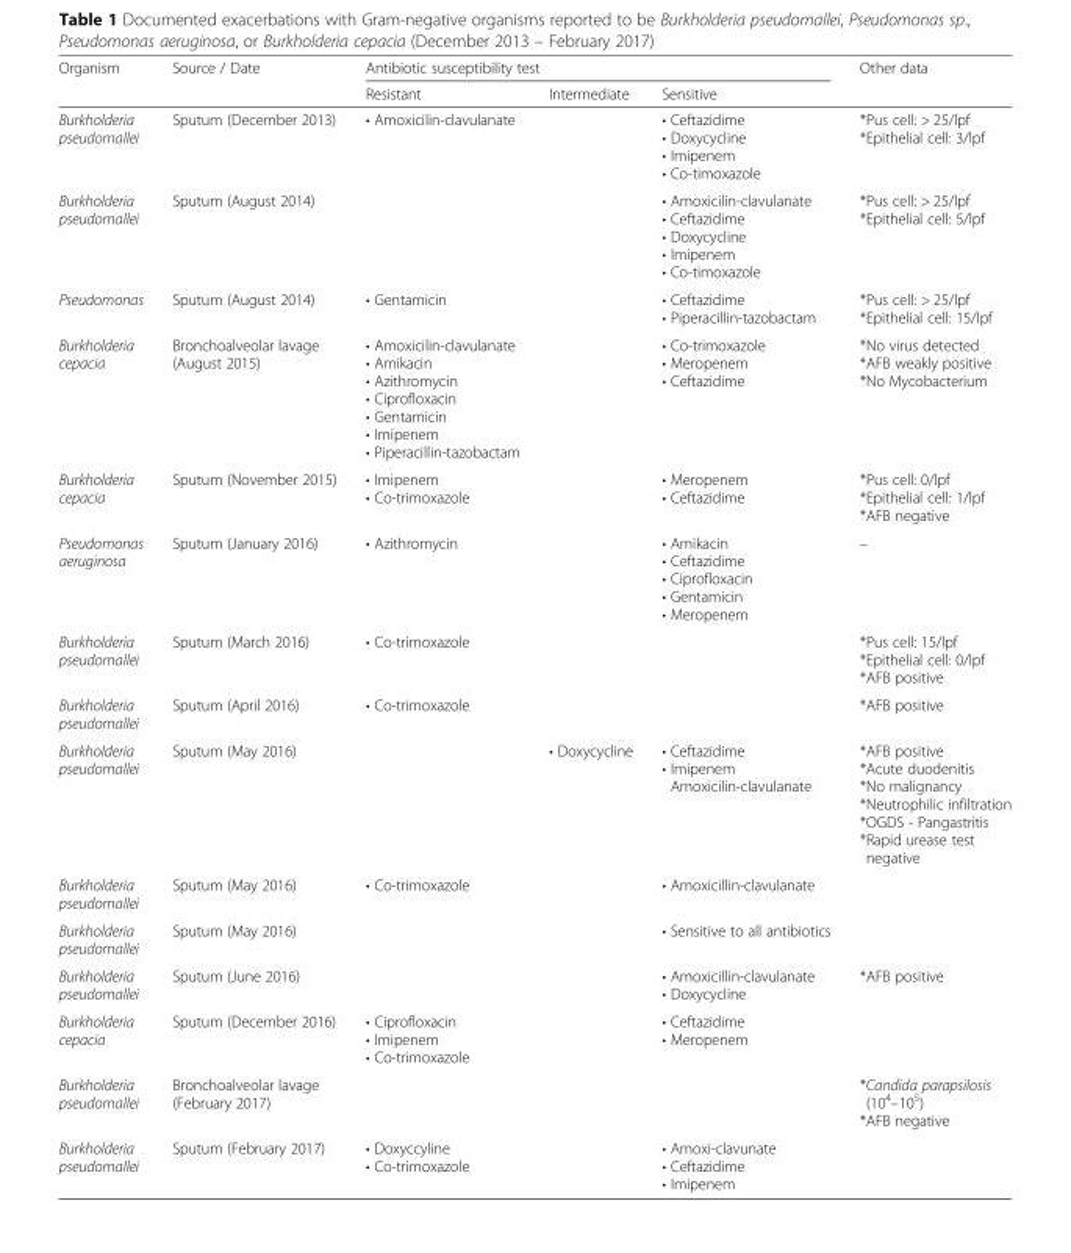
<table><thead><tr><td rowspan="2">Organism</td><td rowspan="2">Source / Date</td><td colspan="3">Antibiotic susceptibility test</td><td rowspan="2">Other data</td></tr><tr><td>Resistant</td><td>Intermediate</td><td>Sensitive</td></tr></thead><tbody><tr><td>Burkholderia pseudomallei</td><td>Sputum (December 2013)</td><td>• Amoxicilin-clavulanate</td><td></td><td>• Ceftazidime • Doxycycline • Imipenem • Co-timoxazole</td><td>*Pus cell: &gt; 25/lpf *Epithelial cell: 3/lpf</td></tr><tr><td>Burkholderia pseudomallei</td><td>Sputum (August 2014)</td><td></td><td></td><td>• Amoxicilin-clavulanate • Ceftazidime • Doxycycline • Imipenem • Co-timoxazole</td><td>*Pus cell: &gt; 25/lpf *Epithelial cell: 5/lpf</td></tr><tr><td>Pseudomonas</td><td>Sputum (August 2014)</td><td>• Gentamicin</td><td></td><td>• Ceftazidime • Piperacillin-tazobactam</td><td>*Pus cell: &gt; 25/lpf *Epithelial cell: 15/lpf</td></tr><tr><td>Burkholderia cepacia</td><td>Bronchoalveolar lavage (August 2015)</td><td>• Amoxicilin-clavulanate • Amikacin • Azithromycin • Ciprofloxacin • Gentamicin • Imipenem • Piperacillin-tazobactam</td><td></td><td>• Co-trimoxazole • Meropenem • Ceftazidime</td><td>*No virus detected *AFB weakly positive *No Mycobacterium</td></tr><tr><td>Burkholderia cepacia</td><td>Sputum (November 2015)</td><td>• Imipenem • Co-trimoxazole</td><td></td><td>• Meropenem • Ceftazidime</td><td>*Pus cell: 0/lpf *Epithelial cell: 1/lpf *AFB negative</td></tr><tr><td>Pseudomonas aeruginosa</td><td>Sputum (January 2016)</td><td>• Azithromycin</td><td></td><td>• Amikacin • Ceftazidime • Ciprofloxacin • Gentamicin • Meropenem</td><td>–</td></tr><tr><td>Burkholderia pseudomallei</td><td>Sputum (March 2016)</td><td>• Co-trimoxazole</td><td></td><td></td><td>*Pus cell: 15/lpf *Epithelial cell: 0/lpf *AFB positive</td></tr><tr><td>Burkholderia pseudomallei</td><td>Sputum (April 2016)</td><td>• Co-trimoxazole</td><td></td><td></td><td>*AFB positive</td></tr><tr><td>Burkholderia pseudomallei</td><td>Sputum (May 2016)</td><td></td><td>• Doxycycline</td><td>• Ceftazidime • Imipenem Amoxicilin-clavulanate</td><td>*AFB positive *Acute duodenitis *No malignancy *Neutrophilic infiltration *OGDS - Pangastritis *Rapid urease test negative</td></tr><tr><td>Burkholderia pseudomallei</td><td>Sputum (May 2016)</td><td>• Co-trimoxazole</td><td></td><td>• Amoxicillin-clavulanate</td><td></td></tr><tr><td>Burkholderia pseudomallei</td><td>Sputum (May 2016)</td><td></td><td></td><td>• Sensitive to all antibiotics</td><td></td></tr><tr><td>Burkholderia pseudomallei</td><td>Sputum (June 2016)</td><td></td><td></td><td>• Amoxicillin-clavulanate • Doxycycline</td><td>*AFB positive</td></tr><tr><td>Burkholderia cepacia</td><td>Sputum (December 2016)</td><td>• Ciprofloxacin • Imipenem • Co-trimoxazole</td><td></td><td>• Ceftazidime • Meropenem</td><td></td></tr><tr><td>Burkholderia pseudomallei</td><td>Bronchoalveolar lavage (February 2017)</td><td></td><td></td><td></td><td>*Candida parapsilosis (10<sup>4</sup>–10<sup>5</sup>) *AFB negative</td></tr><tr><td>Burkholderia pseudomallei</td><td>Sputum (February 2017)</td><td>• Doxyccyline • Co-trimoxazole</td><td></td><td>• Amoxi-clavunate • Ceftazidime • Imipenem</td><td></td></tr></tbody></table>